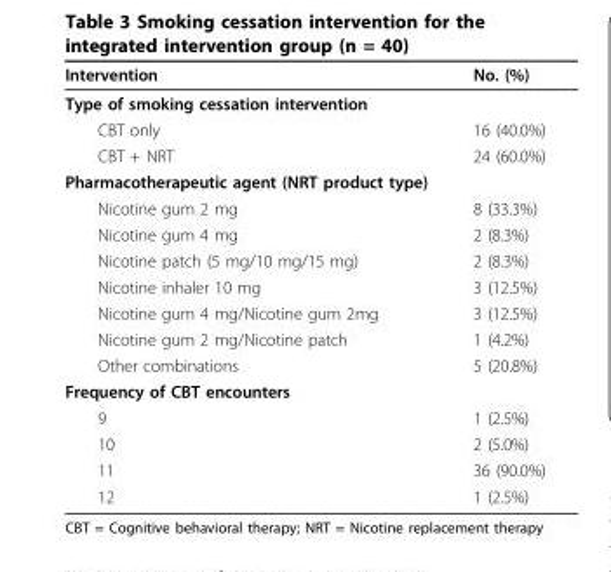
<table><thead><tr><td>Intervention</td><td>No. (%)</td></tr></thead><tbody><tr><td colspan="2">Type of smoking cessation intervention</td></tr><tr><td>CBT only</td><td>16 (40.0%)</td></tr><tr><td>CBT + NRT</td><td>24 (60.0%)</td></tr><tr><td colspan="2">Pharmacotherapeutic agent (NRT product type)</td></tr><tr><td>Nicotine gum 2 mg</td><td>8 (33.3%)</td></tr><tr><td>Nicotine gum 4 mg</td><td>2 (8.3%)</td></tr><tr><td>Nicotine patch (5 mg/10 mg/15 mg)</td><td>2 (8.3%)</td></tr><tr><td>Nicotine inhaler 10 mg</td><td>3 (12.5%)</td></tr><tr><td>Nicotine gum 4 mg/Nicotine gum 2mg</td><td>3 (12.5%)</td></tr><tr><td>Nicotine gum 2 mg/Nicotine patch</td><td>1 (4.2%)</td></tr><tr><td>Other combinations</td><td>5 (20.8%)</td></tr><tr><td colspan="2">Frequency of CBT encounters</td></tr><tr><td>9</td><td>1 (2.5%)</td></tr><tr><td>10</td><td>2 (5.0%)</td></tr><tr><td>11</td><td>36 (90.0%)</td></tr><tr><td>12</td><td>1 (2.5%)</td></tr></tbody></table>